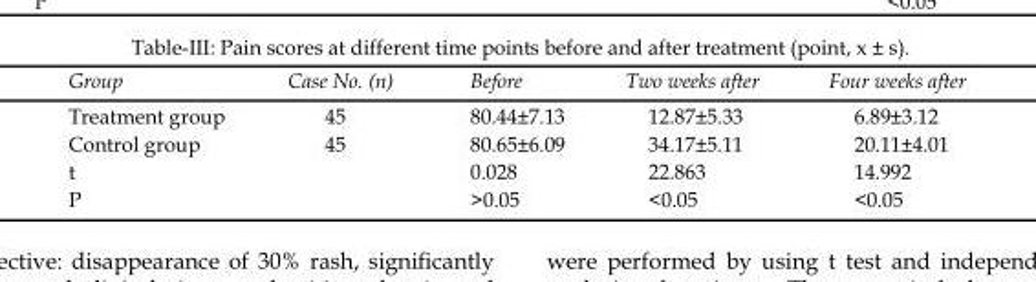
<table><thead><tr><td>Group</td><td>Case No. (n)</td><td>Before</td><td>Two weeks after</td><td>Four weeks after</td></tr></thead><tbody><tr><td>Treatment group</td><td>45</td><td>80.44±7.13</td><td>12.87±5.33</td><td>6.89±3.12</td></tr><tr><td>Control group</td><td>45</td><td>80.65±6.09</td><td>34.17±5.11</td><td>20.11±4.01</td></tr><tr><td>t</td><td></td><td>0.028</td><td>22.863</td><td>14.992</td></tr><tr><td>P</td><td></td><td>&gt;0.05</td><td>&lt;0.05</td><td>&lt;0.05</td></tr></tbody></table>